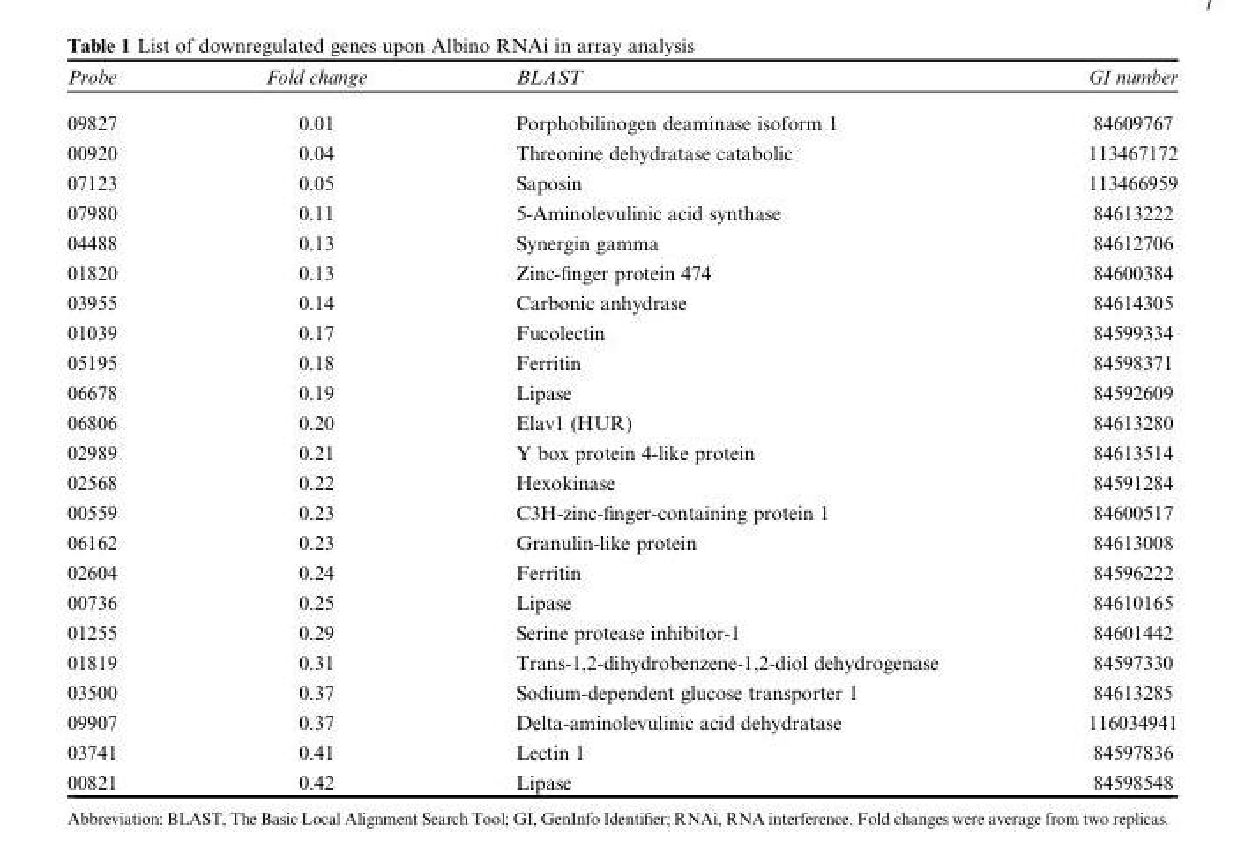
<table><thead><tr><td>Probe</td><td>Fold change</td><td>BLAST</td><td>GI number</td></tr></thead><tbody><tr><td>09827</td><td>0.01</td><td>Porphobilinogen deaminase isoform 1</td><td>84609767</td></tr><tr><td>00920</td><td>0.04</td><td>Threonine dehydratase catabolic</td><td>113467172</td></tr><tr><td>07123</td><td>0.05</td><td>Saposin</td><td>113466959</td></tr><tr><td>07980</td><td>0.11</td><td>5-Aminolevulinic acid synthase</td><td>84613222</td></tr><tr><td>04488</td><td>0.13</td><td>Synergin gamma</td><td>84612706</td></tr><tr><td>01820</td><td>0.13</td><td>Zinc-finger protein 474</td><td>84600384</td></tr><tr><td>03955</td><td>0.14</td><td>Carbonic anhydrase</td><td>84614305</td></tr><tr><td>01039</td><td>0.17</td><td>Fucolectin</td><td>84599334</td></tr><tr><td>05195</td><td>0.18</td><td>Ferritin</td><td>84598371</td></tr><tr><td>06678</td><td>0.19</td><td>Lipase</td><td>84592609</td></tr><tr><td>06806</td><td>0.20</td><td>Elav1 (HUR)</td><td>84613280</td></tr><tr><td>02989</td><td>0.21</td><td>Y box protein 4-like protein</td><td>84613514</td></tr><tr><td>02568</td><td>0.22</td><td>Hexokinase</td><td>84591284</td></tr><tr><td>00559</td><td>0.23</td><td>C3H-zinc-finger-containing protein 1</td><td>84600517</td></tr><tr><td>06162</td><td>0.23</td><td>Granulin-like protein</td><td>84613008</td></tr><tr><td>02604</td><td>0.24</td><td>Ferritin</td><td>84596222</td></tr><tr><td>00736</td><td>0.25</td><td>Lipase</td><td>84610165</td></tr><tr><td>01255</td><td>0.29</td><td>Serine protease inhibitor-1</td><td>84601442</td></tr><tr><td>01819</td><td>0.31</td><td>Trans-1,2-dihydrobenzene-1,2-diol dehydrogenase</td><td>84597330</td></tr><tr><td>03500</td><td>0.37</td><td>Sodium-dependent glucose transporter 1</td><td>84613285</td></tr><tr><td>09907</td><td>0.37</td><td>Delta-aminolevulinic acid dehydratase</td><td>116034941</td></tr><tr><td>03741</td><td>0.41</td><td>Lectin 1</td><td>84597836</td></tr><tr><td>00821</td><td>0.42</td><td>Lipase</td><td>84598548</td></tr></tbody></table>